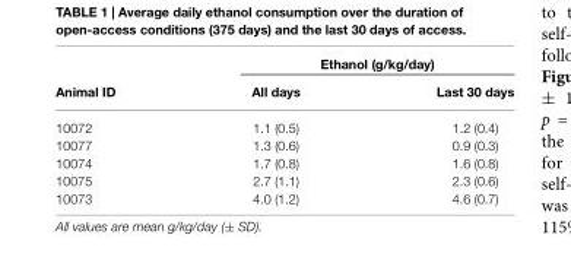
<table><thead><tr><td rowspan="2">Animal ID</td><td colspan="2">Ethanol (g/kg/day)</td></tr><tr><td>All days</td><td>Last 30 days</td></tr></thead><tbody><tr><td>10072</td><td>1.1 (0.5)</td><td>1.2 (0.4)</td></tr><tr><td>10077</td><td>1.3 (0.6)</td><td>0.9 (0.3)</td></tr><tr><td>10074</td><td>1.7 (0.8)</td><td>1.6 (0.8)</td></tr><tr><td>10075</td><td>2.7 (1.1)</td><td>2.3 (0.6)</td></tr><tr><td>10073</td><td>4.0 (1.2)</td><td>4.6 (0.7)</td></tr></tbody></table>